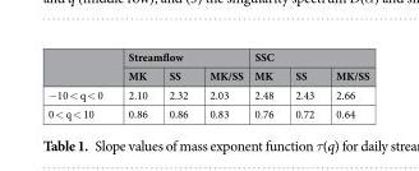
<table><thead><tr><td rowspan="2"></td><td colspan="3">Streamflow</td><td colspan="3">SSC</td></tr><tr><td>MK</td><td>SS</td><td>MK/SS</td><td>MK</td><td>SS</td><td>MK/SS</td></tr></thead><tbody><tr><td>−10 &lt; q &lt; 0</td><td>2.10</td><td>2.32</td><td>2.03</td><td>2.48</td><td>2.43</td><td>2.66</td></tr><tr><td>0 &lt; q &lt; 10</td><td>0.86</td><td>0.86</td><td>0.83</td><td>0.76</td><td>0.72</td><td>0.64</td></tr></tbody></table>